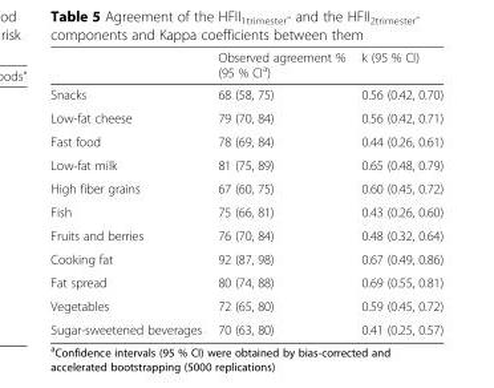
<table><thead><tr><td></td><td>Observed agreement % (95 % CI<sup>a</sup>)</td><td>k (95 % CI)</td></tr></thead><tbody><tr><td>Snacks</td><td>68 (58, 75)</td><td>0.56 (0.42, 0.70)</td></tr><tr><td>Low-fat cheese</td><td>79 (70, 84)</td><td>0.56 (0.42, 0.71)</td></tr><tr><td>Fast food</td><td>78 (69, 84)</td><td>0.44 (0.26, 0.61)</td></tr><tr><td>Low-fat milk</td><td>81 (75, 89)</td><td>0.65 (0.48, 0.79)</td></tr><tr><td>High fiber grains</td><td>67 (60, 75)</td><td>0.60 (0.45, 0.72)</td></tr><tr><td>Fish</td><td>75 (66, 81)</td><td>0.43 (0.26, 0.60)</td></tr><tr><td>Fruits and berries</td><td>76 (70, 84)</td><td>0.48 (0.32, 0.64)</td></tr><tr><td>Cooking fat</td><td>92 (87, 98)</td><td>0.67 (0.49, 0.86)</td></tr><tr><td>Fat spread</td><td>80 (74, 88)</td><td>0.69 (0.55, 0.81)</td></tr><tr><td>Vegetables</td><td>72 (65, 80)</td><td>0.59 (0.45, 0.72)</td></tr><tr><td>Sugar-sweetened beverages</td><td>70 (63, 80)</td><td>0.41 (0.25, 0.57)</td></tr></tbody></table>